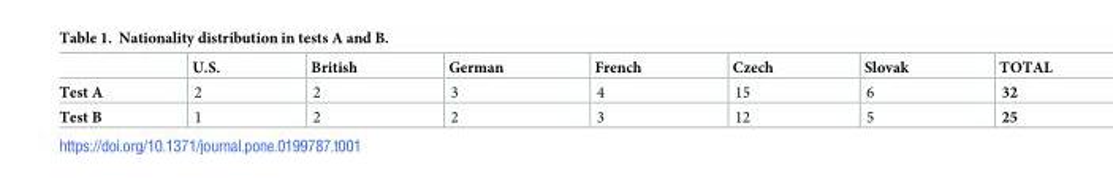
<table><thead><tr><td></td><td>U.S.</td><td>British</td><td>German</td><td>French</td><td>Czech</td><td>Slovak</td><td>TOTAL</td></tr></thead><tbody><tr><td>Test A</td><td>2</td><td>2</td><td>3</td><td>4</td><td>15</td><td>6</td><td>32</td></tr><tr><td>Test B</td><td>1</td><td>2</td><td>2</td><td>3</td><td>12</td><td>5</td><td>25</td></tr></tbody></table>